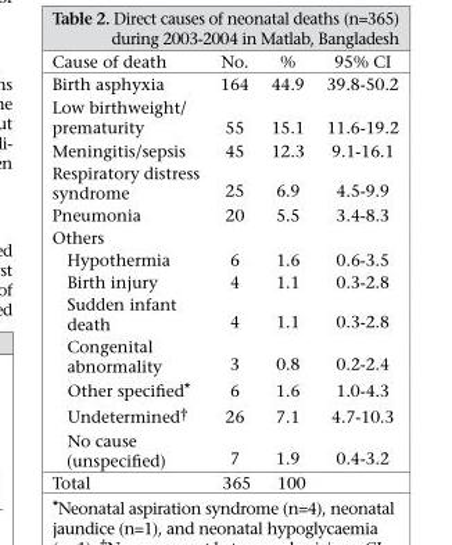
<table><thead><tr><td>Cause of death</td><td>No.</td><td>%</td><td>95% CI</td></tr></thead><tbody><tr><td>Birth asphyxia</td><td>164</td><td>44.9</td><td>39.8-50.2</td></tr><tr><td>Low birthweight/ prematurity</td><td>55</td><td>15.1</td><td>11.6-19.2</td></tr><tr><td>Meningitis/sepsis</td><td>45</td><td>12.3</td><td>9.1-16.1</td></tr><tr><td>Respiratory distress syndrome</td><td>25</td><td>6.9</td><td>4.5-9.9</td></tr><tr><td>Pneumonia</td><td>20</td><td>5.5</td><td>3.4-8.3</td></tr><tr><td colspan="4">Others</td></tr><tr><td>Hypothermia</td><td>6</td><td>1.6</td><td>0.6-3.5</td></tr><tr><td>Birth injury</td><td>4</td><td>1.1</td><td>0.3-2.8</td></tr><tr><td>Sudden infant death</td><td>4</td><td>1.1</td><td>0.3-2.8</td></tr><tr><td>Congenital abnormality</td><td>3</td><td>0.8</td><td>0.2-2.4</td></tr><tr><td>Other specified*</td><td>6</td><td>1.6</td><td>1.0-4.3</td></tr><tr><td>Undetermined†</td><td>26</td><td>7.1</td><td>4.7-10.3</td></tr><tr><td>No cause (unspecified)</td><td>7</td><td>1.9</td><td>0.4-3.2</td></tr><tr><td>Total</td><td>365</td><td>100</td><td></td></tr></tbody></table>